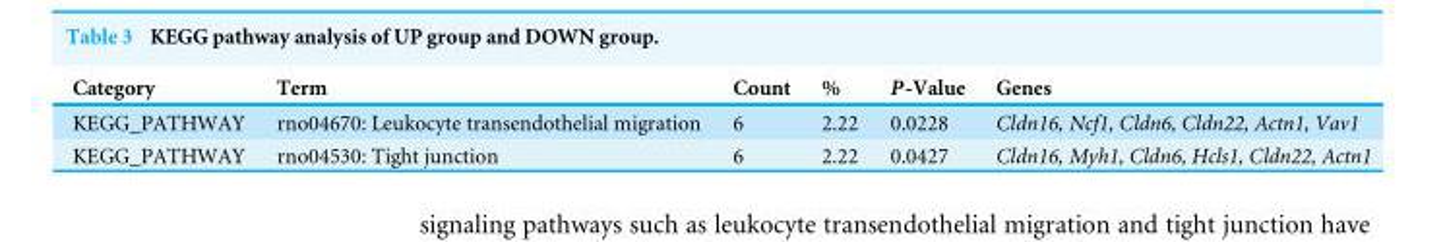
<table><thead><tr><td>Category</td><td>Term</td><td>Count</td><td>%</td><td>P-Value</td><td>Genes</td></tr></thead><tbody><tr><td>KEGG_PATHWAY</td><td>rno04670: Leukocyte transendothelial migration</td><td>6</td><td>2.22</td><td>0.0228</td><td>Cldn16, Ncf1, Cldn6, Cldn22, Actn1, Vav1</td></tr><tr><td>KEGG_PATHWAY</td><td>rno04530: Tight junction</td><td>6</td><td>2.22</td><td>0.0427</td><td>Cldn16, Myh1, Cldn6, Hcls1, Cldn22, Actn1</td></tr></tbody></table>